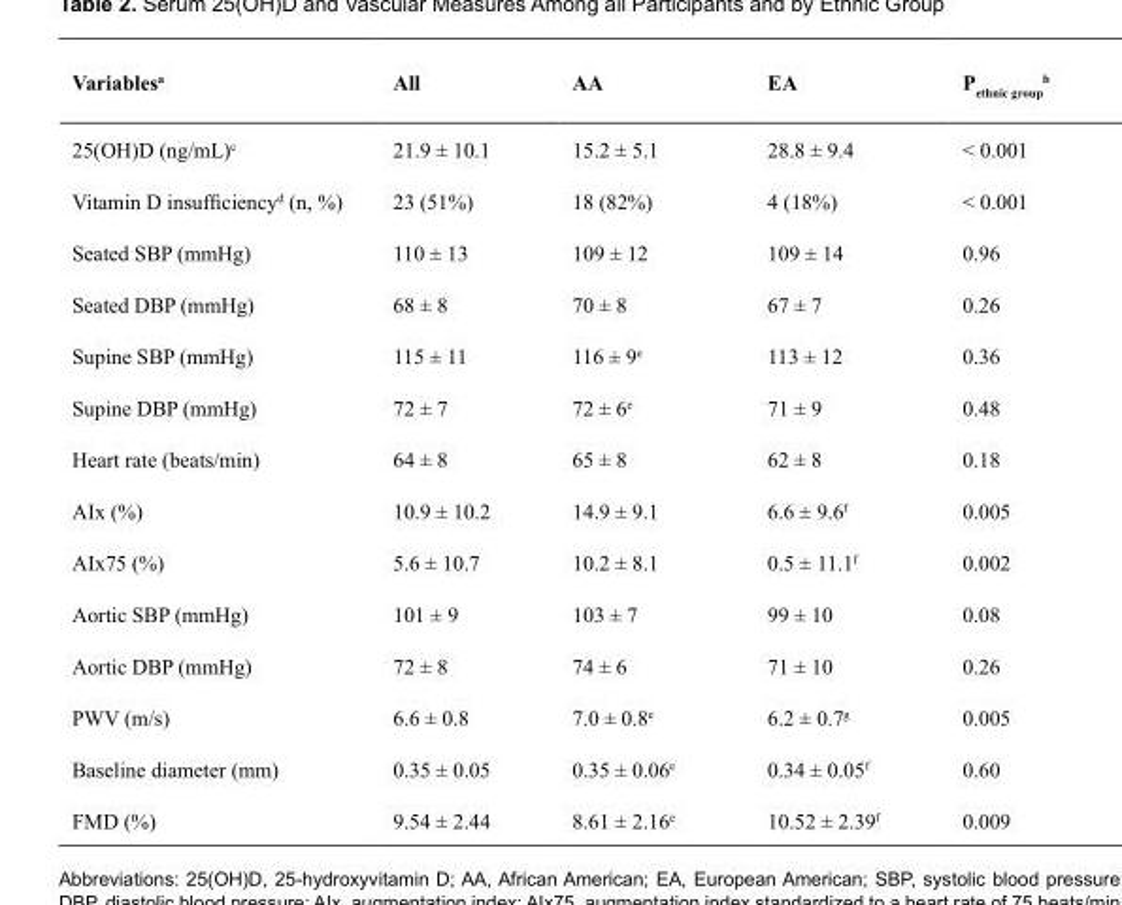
<table><thead><tr><td>Variables<sup>a</sup></td><td>All</td><td>AA</td><td>EA</td><td>P<sub>ethnic group</sub> <sup>b</sup></td></tr></thead><tbody><tr><td>25(OH)D (ng/mL)<sup>c</sup></td><td>21.9 ± 10.1</td><td>15.2 ± 5.1</td><td>28.8 ± 9.4</td><td>&lt; 0.001</td></tr><tr><td>Vitamin D insufficiency<sup>d</sup> (n, %)</td><td>23 (51%)</td><td>18 (82%)</td><td>4 (18%)</td><td>&lt; 0.001</td></tr><tr><td>Seated SBP (mmHg)</td><td>110 ± 13</td><td>109 ± 12</td><td>109 ± 14</td><td>0.96</td></tr><tr><td>Seated DBP (mmHg)</td><td>68 ± 8</td><td>70 ± 8</td><td>67 ± 7</td><td>0.26</td></tr><tr><td>Supine SBP (mmHg)</td><td>115 ± 11</td><td>116 ± 9<sup>e</sup></td><td>113 ± 12</td><td>0.36</td></tr><tr><td>Supine DBP (mmHg)</td><td>72 ± 7</td><td>72 ± 6<sup>e</sup></td><td>71 ± 9</td><td>0.48</td></tr><tr><td>Heart rate (beats/min)</td><td>64 ± 8</td><td>65 ± 8</td><td>62 ± 8</td><td>0.18</td></tr><tr><td>AIx (%)</td><td>10.9 ± 10.2</td><td>14.9 ± 9.1</td><td>6.6 ± 9.6<sup>f</sup></td><td>0.005</td></tr><tr><td>AIx75 (%)</td><td>5.6 ± 10.7</td><td>10.2 ± 8.1</td><td>0.5 ± 11.1<sup>f</sup></td><td>0.002</td></tr><tr><td>Aortic SBP (mmHg)</td><td>101 ± 9</td><td>103 ± 7</td><td>99 ± 10</td><td>0.08</td></tr><tr><td>Aortic DBP (mmHg)</td><td>72 ± 8</td><td>74 ± 6</td><td>71 ± 10</td><td>0.26</td></tr><tr><td>PWV (m/s)</td><td>6.6 ± 0.8</td><td>7.0 ± 0.8<sup>e</sup></td><td>6.2 ± 0.7<sup>g</sup></td><td>0.005</td></tr><tr><td>Baseline diameter (mm)</td><td>0.35 ± 0.05</td><td>0.35 ± 0.06<sup>e</sup></td><td>0.34 ± 0.05<sup>f</sup></td><td>0.60</td></tr><tr><td>FMD (%)</td><td>9.54 ± 2.44</td><td>8.61 ± 2.16<sup>e</sup></td><td>10.52 ± 2.39<sup>f</sup></td><td>0.009</td></tr></tbody></table>